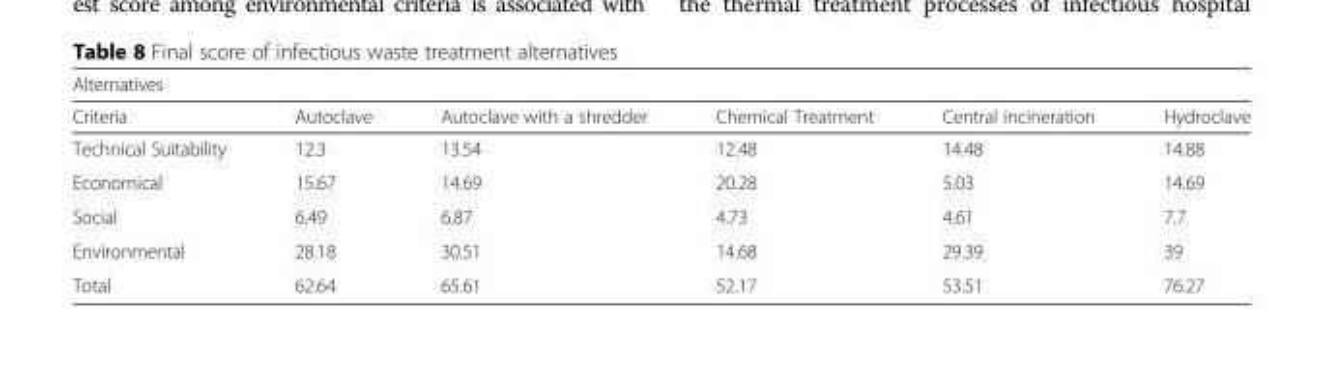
<table><thead><tr><td colspan="6">Alternatives</td></tr><tr><td>Criteria</td><td>Autoclave</td><td>Autoclave with a shredder</td><td>Chemical Treatment</td><td>Central incineration</td><td>Hydroclave</td></tr></thead><tbody><tr><td>Technical Suitability</td><td>12.3</td><td>13.54</td><td>12.48</td><td>14.48</td><td>14.88</td></tr><tr><td>Economical</td><td>15.67</td><td>14.69</td><td>20.28</td><td>5.03</td><td>14.69</td></tr><tr><td>Social</td><td>6.49</td><td>6.87</td><td>4.73</td><td>4.61</td><td>7.7</td></tr><tr><td>Environmental</td><td>28.18</td><td>30.51</td><td>14.68</td><td>29.39</td><td>39</td></tr><tr><td>Total</td><td>62.64</td><td>65.61</td><td>52.17</td><td>53.51</td><td>76.27</td></tr></tbody></table>